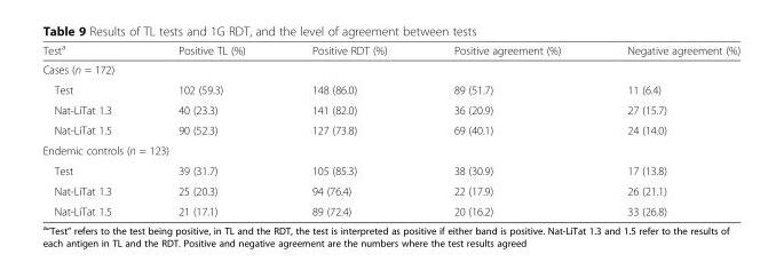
<table><thead><tr><td>Test<sup>a</sup></td><td>Positive TL (%)</td><td>Positive RDT (%)</td><td>Positive agreement (%)</td><td>Negative agreement (%)</td></tr></thead><tbody><tr><td colspan="5">Cases (n = 172)</td></tr><tr><td>Test</td><td>102 (59.3)</td><td>148 (86.0)</td><td>89 (51.7)</td><td>11 (6.4)</td></tr><tr><td>Nat-LiTat 1.3</td><td>40 (23.3)</td><td>141 (82.0)</td><td>36 (20.9)</td><td>27 (15.7)</td></tr><tr><td>Nat-LiTat 1.5</td><td>90 (52.3)</td><td>127 (73.8)</td><td>69 (40.1)</td><td>24 (14.0)</td></tr><tr><td colspan="5">Endemic controls (n = 123)</td></tr><tr><td>Test</td><td>39 (31.7)</td><td>105 (85.3)</td><td>38 (30.9)</td><td>17 (13.8)</td></tr><tr><td>Nat-LiTat 1.3</td><td>25 (20.3)</td><td>94 (76.4)</td><td>22 (17.9)</td><td>26 (21.1)</td></tr><tr><td>Nat-LiTat 1.5</td><td>21 (17.1)</td><td>89 (72.4)</td><td>20 (16.2)</td><td>33 (26.8)</td></tr></tbody></table>